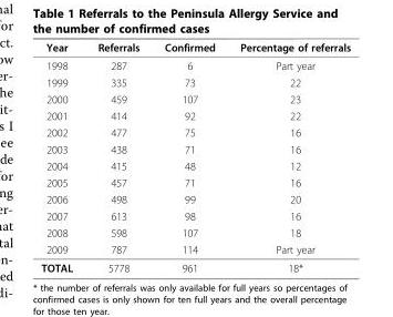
<table><thead><tr><td>Year</td><td>Referrals</td><td>Confirmed</td><td>Percentage of referrals</td></tr></thead><tbody><tr><td>1998</td><td>287</td><td>6</td><td>Part year</td></tr><tr><td>1999</td><td>335</td><td>73</td><td>22</td></tr><tr><td>2000</td><td>459</td><td>107</td><td>23</td></tr><tr><td>2001</td><td>414</td><td>92</td><td>22</td></tr><tr><td>2002</td><td>477</td><td>75</td><td>16</td></tr><tr><td>2003</td><td>438</td><td>71</td><td>16</td></tr><tr><td>2004</td><td>415</td><td>48</td><td>12</td></tr><tr><td>2005</td><td>457</td><td>71</td><td>16</td></tr><tr><td>2006</td><td>498</td><td>99</td><td>20</td></tr><tr><td>2007</td><td>613</td><td>98</td><td>16</td></tr><tr><td>2008</td><td>598</td><td>107</td><td>18</td></tr><tr><td>2009</td><td>787</td><td>114</td><td>Part year</td></tr><tr><td>TOTAL</td><td>5778</td><td>961</td><td>18*</td></tr></tbody></table>